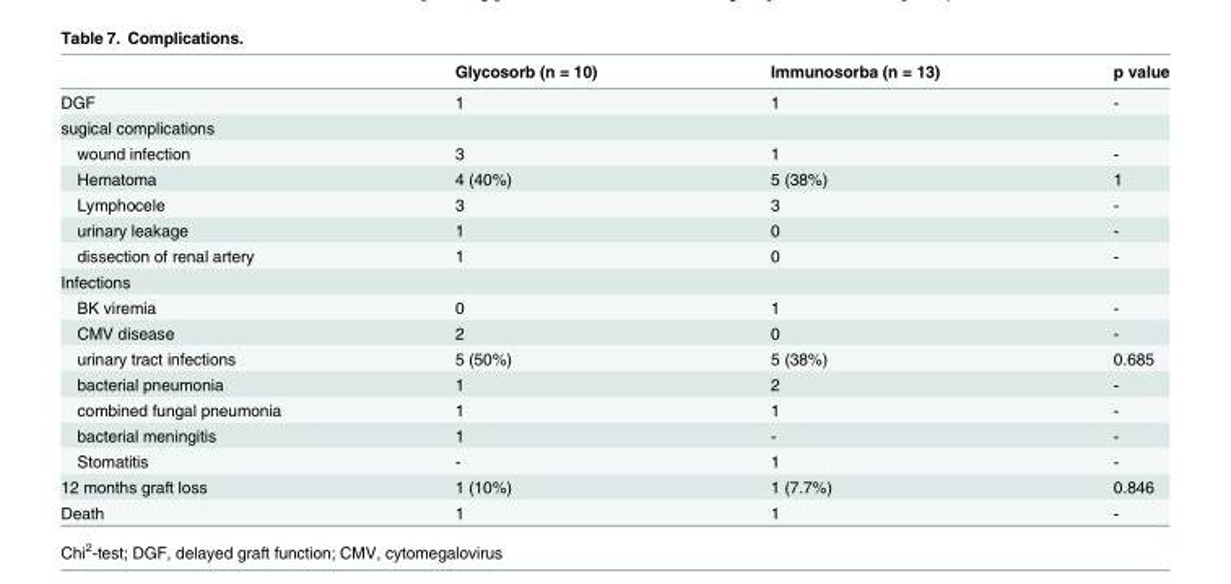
<table><thead><tr><td></td><td>Glycosorb (n = 10)</td><td>Immunosorba (n = 13)</td><td>p value</td></tr></thead><tbody><tr><td>DGF</td><td>1</td><td>1</td><td>-</td></tr><tr><td colspan="4">sugical complications</td></tr><tr><td>wound infection</td><td>3</td><td>1</td><td>-</td></tr><tr><td>Hematoma</td><td>4 (40%)</td><td>5 (38%)</td><td>1</td></tr><tr><td>Lymphocele</td><td>3</td><td>3</td><td>-</td></tr><tr><td>urinary leakage</td><td>1</td><td>0</td><td>-</td></tr><tr><td>dissection of renal artery</td><td>1</td><td>0</td><td>-</td></tr><tr><td colspan="4">Infections</td></tr><tr><td>BK viremia</td><td>0</td><td>1</td><td>-</td></tr><tr><td>CMV disease</td><td>2</td><td>0</td><td>-</td></tr><tr><td>urinary tract infections</td><td>5 (50%)</td><td>5 (38%)</td><td>0.685</td></tr><tr><td>bacterial pneumonia</td><td>1</td><td>2</td><td>-</td></tr><tr><td>combined fungal pneumonia</td><td>1</td><td>1</td><td>-</td></tr><tr><td>bacterial meningitis</td><td>1</td><td>-</td><td>-</td></tr><tr><td>Stomatitis</td><td>-</td><td>1</td><td>-</td></tr><tr><td>12 months graft loss</td><td>1 (10%)</td><td>1 (7.7%)</td><td>0.846</td></tr><tr><td>Death</td><td>1</td><td>1</td><td>-</td></tr></tbody></table>